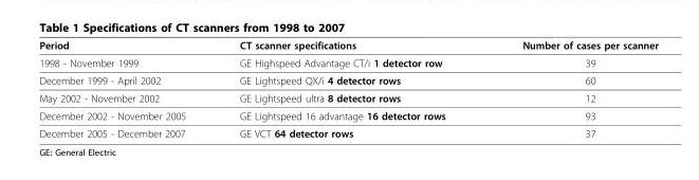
<table><thead><tr><td>Period</td><td>CT scanner specifications</td><td>Number of cases per scanner</td></tr></thead><tbody><tr><td>1998 - November 1999</td><td>GE Highspeed Advantage CT/i 1 detector row</td><td>39</td></tr><tr><td>December 1999 - April 2002</td><td>GE Lightspeed QX/i 4 detector rows</td><td>60</td></tr><tr><td>May 2002 - November 2002</td><td>GE Lightspeed ultra 8 detector rows</td><td>12</td></tr><tr><td>December 2002 - November 2005</td><td>GE Lightspeed 16 advantage 16 detector rows</td><td>93</td></tr><tr><td>December 2005 - December 2007</td><td>GE VCT 64 detector rows</td><td>37</td></tr></tbody></table>